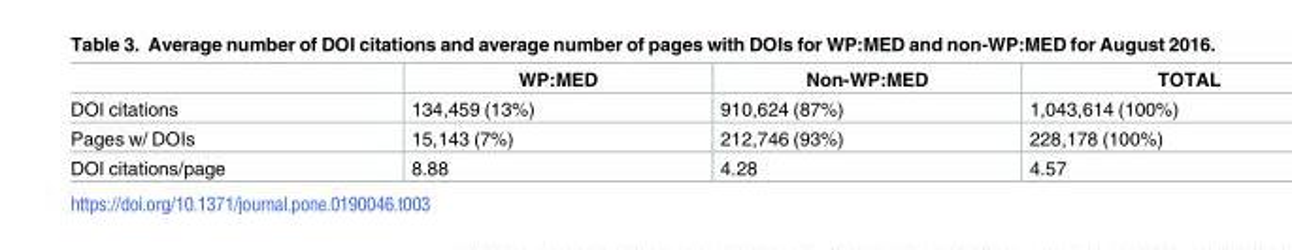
<table><thead><tr><td></td><td>WP:MED</td><td>Non-WP:MED</td><td>TOTAL</td></tr></thead><tbody><tr><td>DOI citations</td><td>134,459 (13%)</td><td>910,624 (87%)</td><td>1,043,614 (100%)</td></tr><tr><td>Pages w/ DOIs</td><td>15,143 (7%)</td><td>212,746 (93%)</td><td>228,178 (100%)</td></tr><tr><td>DOI citations/page</td><td>8.88</td><td>4.28</td><td>4.57</td></tr></tbody></table>